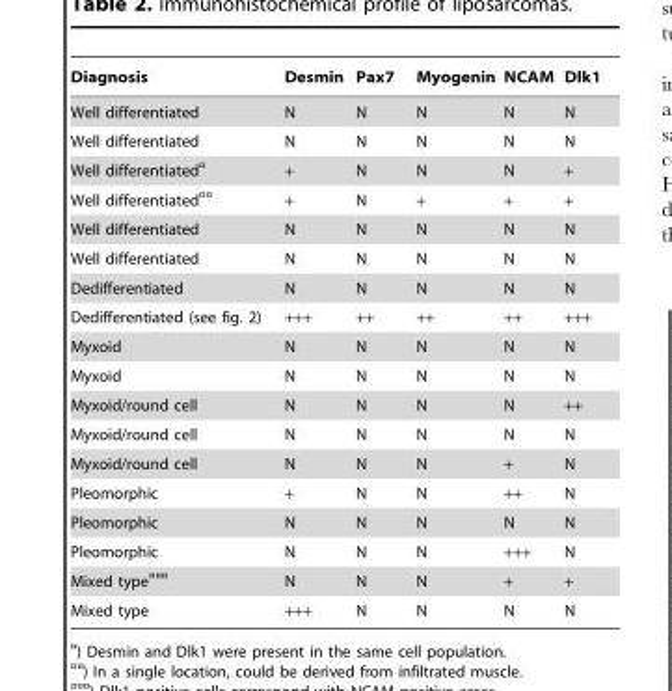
<table><thead><tr><td>Diagnosis</td><td>Desmin</td><td>Pax7</td><td>Myogenin</td><td>NCAM</td><td>Dlk1</td></tr></thead><tbody><tr><td>Well differentiated</td><td>N</td><td>N</td><td>N</td><td>N</td><td>N</td></tr><tr><td>Well differentiated</td><td>N</td><td>N</td><td>N</td><td>N</td><td>N</td></tr><tr><td>Well differentiated¤</td><td>+</td><td>N</td><td>N</td><td>N</td><td>+</td></tr><tr><td>Well differentiated¤¤</td><td>+</td><td>N</td><td>+</td><td>+</td><td>+</td></tr><tr><td>Well differentiated</td><td>N</td><td>N</td><td>N</td><td>N</td><td>N</td></tr><tr><td>Well differentiated</td><td>N</td><td>N</td><td>N</td><td>N</td><td>N</td></tr><tr><td>Dedifferentiated</td><td>N</td><td>N</td><td>N</td><td>N</td><td>N</td></tr><tr><td>Dedifferentiated (see fig. 2)</td><td>+++</td><td>++</td><td>++</td><td>++</td><td>+++</td></tr><tr><td>Myxoid</td><td>N</td><td>N</td><td>N</td><td>N</td><td>N</td></tr><tr><td>Myxoid</td><td>N</td><td>N</td><td>N</td><td>N</td><td>N</td></tr><tr><td>Myxoid/round cell</td><td>N</td><td>N</td><td>N</td><td>N</td><td>++</td></tr><tr><td>Myxoid/round cell</td><td>N</td><td>N</td><td>N</td><td>N</td><td>N</td></tr><tr><td>Myxoid/round cell</td><td>N</td><td>N</td><td>N</td><td>+</td><td>N</td></tr><tr><td>Pleomorphic</td><td>+</td><td>N</td><td>N</td><td>++</td><td>N</td></tr><tr><td>Pleomorphic</td><td>N</td><td>N</td><td>N</td><td>N</td><td>N</td></tr><tr><td>Pleomorphic</td><td>N</td><td>N</td><td>N</td><td>+++</td><td>N</td></tr><tr><td>Mixed type¤¤¤</td><td>N</td><td>N</td><td>N</td><td>+</td><td>+</td></tr><tr><td>Mixed type</td><td>+++</td><td>N</td><td>N</td><td>N</td><td>N</td></tr></tbody></table>